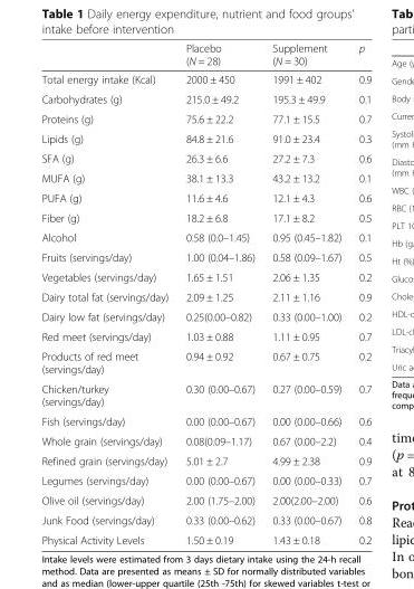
<table><thead><tr><td></td><td>Placebo (N = 28)</td><td>Supplement (N = 30)</td><td>p</td></tr></thead><tbody><tr><td>Total energy intake (Kcal)</td><td>2000 ± 450</td><td>1991 ± 402</td><td>0.9</td></tr><tr><td>Carbohydrates (g)</td><td>215.0 ± 49.2</td><td>195.3 ± 49.9</td><td>0.1</td></tr><tr><td>Proteins (g)</td><td>75.6 ± 22.2</td><td>77.1 ± 15.5</td><td>0.7</td></tr><tr><td>Lipids (g)</td><td>84.8 ± 21.6</td><td>91.0 ± 23.4</td><td>0.3</td></tr><tr><td>SFA (g)</td><td>26.3 ± 6.6</td><td>27.2 ± 7.3</td><td>0.6</td></tr><tr><td>MUFA (g)</td><td>38.1 ± 13.3</td><td>43.2 ± 13.2</td><td>0.1</td></tr><tr><td>PUFA (g)</td><td>11.6 ± 4.6</td><td>12.1 ± 4.3</td><td>0.6</td></tr><tr><td>Fiber (g)</td><td>18.2 ± 6.8</td><td>17.1 ± 8.2</td><td>0.5</td></tr><tr><td>Alcohol</td><td>0.58 (0.0–1.45)</td><td>0.95 (0.45–1.82)</td><td>0.1</td></tr><tr><td>Fruits (servings/day)</td><td>1.00 (0.04–1.86)</td><td>0.58 (0.09–1.67)</td><td>0.5</td></tr><tr><td>Vegetables (servings/day)</td><td>1.65 ± 1.51</td><td>2.06 ± 1.35</td><td>0.2</td></tr><tr><td>Dairy total fat (servings/day)</td><td>2.09 ± 1.25</td><td>2.11 ± 1.16</td><td>0.9</td></tr><tr><td>Dairy low fat (servings/day)</td><td>0.25(0.00–0.82)</td><td>0.33 (0.00–1.00)</td><td>0.2</td></tr><tr><td>Red meet (servings/day)</td><td>1.03 ± 0.88</td><td>1.11 ± 0.95</td><td>0.7</td></tr><tr><td>Products of red meet (servings/day)</td><td>0.94 ± 0.92</td><td>0.67 ± 0.75</td><td>0.2</td></tr><tr><td>Chicken/turkey (servings/day)</td><td>0.30 (0.00–0.67)</td><td>0.27 (0.00–0.59)</td><td>0.7</td></tr><tr><td>Fish (servings/day)</td><td>0.00 (0.00–0.67)</td><td>0.00 (0.00–0.66)</td><td>0.6</td></tr><tr><td>Whole grain (servings/day)</td><td>0.08(0.09–1.17)</td><td>0.67 (0.00–2.2)</td><td>0.4</td></tr><tr><td>Refined grain (servings/day)</td><td>5.01 ± 2.7</td><td>4.99 ± 2.38</td><td>0.9</td></tr><tr><td>Legumes (servings/day)</td><td>0.00 (0.00–0.67)</td><td>0.00 (0.00–0.33)</td><td>0.7</td></tr><tr><td>Olive oil (servings/day)</td><td>2.00 (1.75–2.00)</td><td>2.00(2.00–2.00)</td><td>0.6</td></tr><tr><td>Junk Food (servings/day)</td><td>0.33 (0.00–0.62)</td><td>0.33 (0.00–0.67)</td><td>0.8</td></tr><tr><td>Physical Activity Levels</td><td>1.50 ± 0.19</td><td>1.43 ± 0.18</td><td>0.2</td></tr></tbody></table>